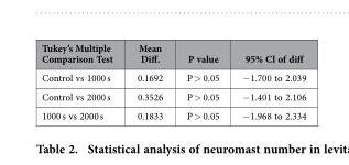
<table><thead><tr><td>Tukey’s Multiple Comparison Test</td><td>Mean Diff.</td><td>P value</td><td>95% Cl of diff</td></tr></thead><tbody><tr><td>Control vs 1000 s</td><td>0.1692</td><td>P &gt; 0.05</td><td>− 1.700 to 2.039</td></tr><tr><td>Control vs 2000 s</td><td>0.3526</td><td>P &gt; 0.05</td><td>− 1.401 to 2.106</td></tr><tr><td>1000 s vs 2000 s</td><td>0.1833</td><td>P &gt; 0.05</td><td>− 1.968 to 2.334</td></tr></tbody></table>